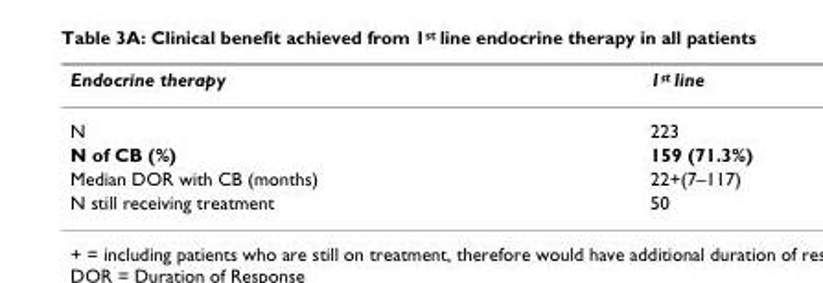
<table><thead><tr><td>Endocrine therapy</td><td>1<sup>st</sup> line</td></tr></thead><tbody><tr><td>N</td><td>223</td></tr><tr><td>N of CB (%)</td><td>159 (71.3%)</td></tr><tr><td>Median DOR with CB (months)</td><td>22+(7–117)</td></tr><tr><td>N still receiving treatment</td><td>50</td></tr></tbody></table>